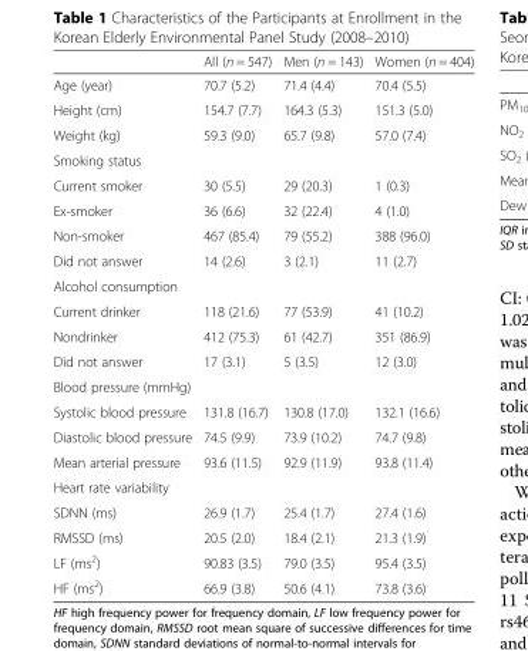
<table><thead><tr><td></td><td>All (n = 547)</td><td>Men (n = 143)</td><td>Women (n = 404)</td></tr></thead><tbody><tr><td>Age (year)</td><td>70.7 (5.2)</td><td>71.4 (4.4)</td><td>70.4 (5.5)</td></tr><tr><td>Height (cm)</td><td>154.7 (7.7)</td><td>164.3 (5.3)</td><td>151.3 (5.0)</td></tr><tr><td>Weight (kg)</td><td>59.3 (9.0)</td><td>65.7 (9.8)</td><td>57.0 (7.4)</td></tr><tr><td colspan="4">Smoking status</td></tr><tr><td>Current smoker</td><td>30 (5.5)</td><td>29 (20.3)</td><td>1 (0.3)</td></tr><tr><td>Ex-smoker</td><td>36 (6.6)</td><td>32 (22.4)</td><td>4 (1.0)</td></tr><tr><td>Non-smoker</td><td>467 (85.4)</td><td>79 (55.2)</td><td>388 (96.0)</td></tr><tr><td>Did not answer</td><td>14 (2.6)</td><td>3 (2.1)</td><td>11 (2.7)</td></tr><tr><td colspan="4">Alcohol consumption</td></tr><tr><td>Current drinker</td><td>118 (21.6)</td><td>77 (53.9)</td><td>41 (10.2)</td></tr><tr><td>Nondrinker</td><td>412 (75.3)</td><td>61 (42.7)</td><td>351 (86.9)</td></tr><tr><td>Did not answer</td><td>17 (3.1)</td><td>5 (3.5)</td><td>12 (3.0)</td></tr><tr><td colspan="4">Blood pressure (mmHg)</td></tr><tr><td>Systolic blood pressure</td><td>131.8 (16.7)</td><td>130.8 (17.0)</td><td>132.1 (16.6)</td></tr><tr><td>Diastolic blood pressure</td><td>74.5 (9.9)</td><td>73.9 (10.2)</td><td>74.7 (9.8)</td></tr><tr><td>Mean arterial pressure</td><td>93.6 (11.5)</td><td>92.9 (11.9)</td><td>93.8 (11.4)</td></tr><tr><td colspan="4">Heart rate variability</td></tr><tr><td>SDNN (ms)</td><td>26.9 (1.7)</td><td>25.4 (1.7)</td><td>27.4 (1.6)</td></tr><tr><td>RMSSD (ms)</td><td>20.5 (2.0)</td><td>18.4 (2.1)</td><td>21.3 (1.9)</td></tr><tr><td>LF (ms<sup>2</sup>)</td><td>90.83 (3.5)</td><td>79.0 (3.5)</td><td>95.4 (3.5)</td></tr><tr><td>HF (ms<sup>2</sup>)</td><td>66.9 (3.8)</td><td>50.6 (4.1)</td><td>73.8 (3.6)</td></tr></tbody></table>